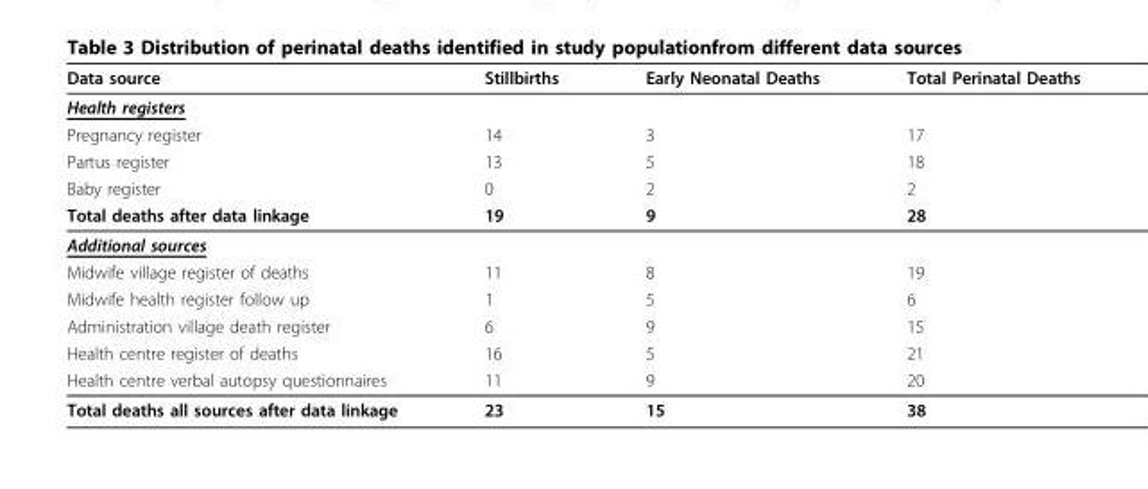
<table><thead><tr><td>Data source</td><td>Stillbirths</td><td>Early Neonatal Deaths</td><td>Total Perinatal Deaths</td></tr></thead><tbody><tr><td colspan="4">Health registers</td></tr><tr><td>Pregnancy register</td><td>14</td><td>3</td><td>17</td></tr><tr><td>Partus register</td><td>13</td><td>5</td><td>18</td></tr><tr><td>Baby register</td><td>0</td><td>2</td><td>2</td></tr><tr><td>Total deaths after data linkage</td><td>19</td><td>9</td><td>28</td></tr><tr><td colspan="4">Additional sources</td></tr><tr><td>Midwife village register of deaths</td><td>11</td><td>8</td><td>19</td></tr><tr><td>Midwife health register follow up</td><td>1</td><td>5</td><td>6</td></tr><tr><td>Administration village death register</td><td>6</td><td>9</td><td>15</td></tr><tr><td>Health centre register of deaths</td><td>16</td><td>5</td><td>21</td></tr><tr><td>Health centre verbal autopsy questionnaires</td><td>11</td><td>9</td><td>20</td></tr><tr><td>Total deaths all sources after data linkage</td><td>23</td><td>15</td><td>38</td></tr></tbody></table>